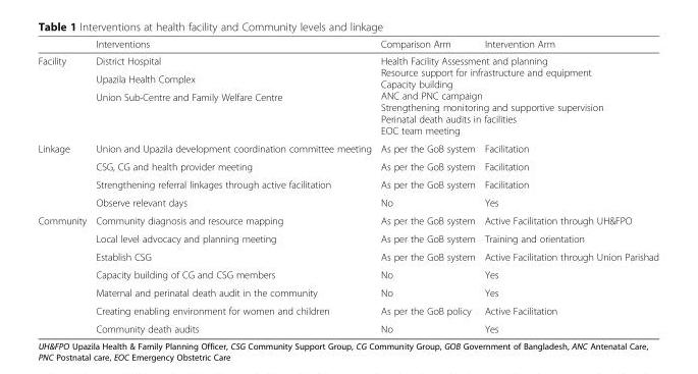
<table><thead><tr><td></td><td>Interventions</td><td>Comparison Arm</td><td>Intervention Arm</td></tr></thead><tbody><tr><td rowspan="3">Facility</td><td>District Hospital</td><td rowspan="3" colspan="2">Health Facility Assessment and planning Resource support for infrastructure and equipment Capacity building ANC and PNC campaign Strengthening monitoring and supportive supervision Perinatal death audits in facilities EOC team meeting</td></tr><tr><td>Upazila Health Complex</td></tr><tr><td>Union Sub-Centre and Family Welfare Centre</td></tr><tr><td rowspan="4">Linkage</td><td>Union and Upazila development coordination committee meeting</td><td>As per the GoB system</td><td>Facilitation</td></tr><tr><td>CSG, CG and health provider meeting</td><td>As per the GoB system</td><td>Facilitation</td></tr><tr><td>Strengthening referral linkages through active facilitation</td><td>As per the GoB system</td><td>Facilitation</td></tr><tr><td>Observe relevant days</td><td>No</td><td>Yes</td></tr><tr><td rowspan="7">Community</td><td>Community diagnosis and resource mapping</td><td>As per the GoB system</td><td>Active Facilitation through UH&amp;FPO</td></tr><tr><td>Local level advocacy and planning meeting</td><td>As per the GoB system</td><td>Training and orientation</td></tr><tr><td>Establish CSG</td><td>As per the GoB system</td><td>Active Facilitation through Union Parishad</td></tr><tr><td>Capacity building of CG and CSG members</td><td>No</td><td>Yes</td></tr><tr><td>Maternal and perinatal death audit in the community</td><td>No</td><td>Yes</td></tr><tr><td>Creating enabling environment for women and children</td><td>As per the GoB policy</td><td>Active Facilitation</td></tr><tr><td>Community death audits</td><td>No</td><td>Yes</td></tr></tbody></table>